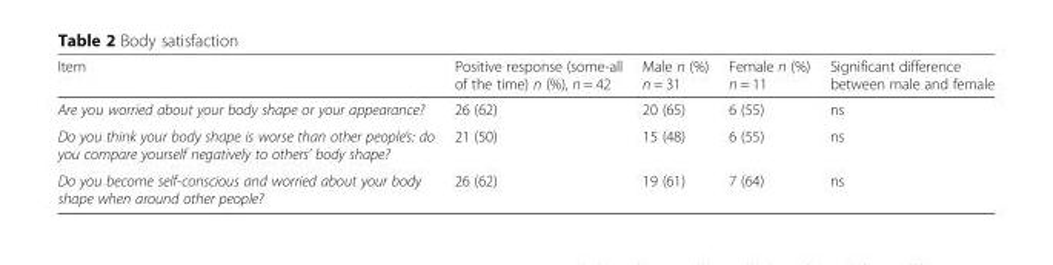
<table><thead><tr><td>Item</td><td>Positive response (some-all of the time) n (%), n = 42</td><td>Male n (%) n = 31</td><td>Female n (%) n = 11</td><td>Significant difference between male and female</td></tr></thead><tbody><tr><td>Are you worried about your body shape or your appearance?</td><td>26 (62)</td><td>20 (65)</td><td>6 (55)</td><td>ns</td></tr><tr><td>Do you think your body shape is worse than other people’s: do you compare yourself negatively to others’ body shape?</td><td>21 (50)</td><td>15 (48)</td><td>6 (55)</td><td>ns</td></tr><tr><td>Do you become self-conscious and worried about your body shape when around other people?</td><td>26 (62)</td><td>19 (61)</td><td>7 (64)</td><td>ns</td></tr></tbody></table>